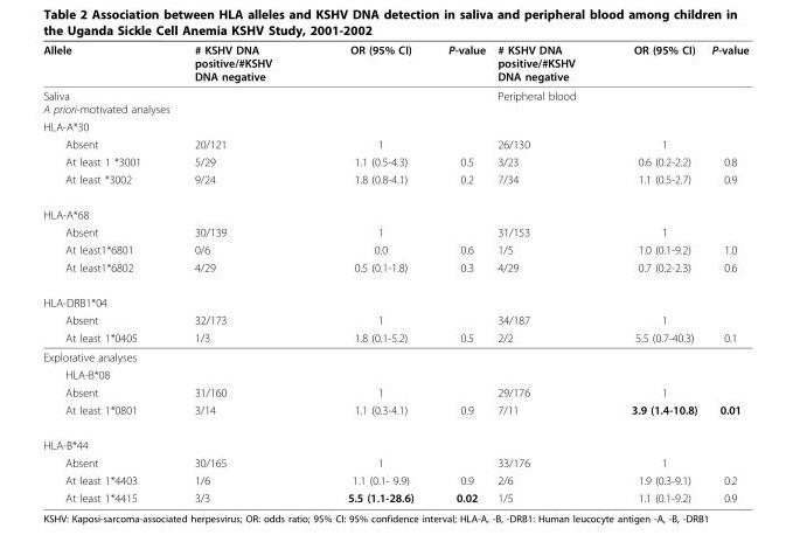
<table><thead><tr><td>Allele</td><td># KSHV DNA positive/#KSHV DNA negative</td><td>OR (95% CI)</td><td>P-value</td><td># KSHV DNA positive/#KSHV DNA negative</td><td>OR (95% CI)</td><td>P-value</td></tr></thead><tbody><tr><td colspan="2">Saliva A priori-motivated analyses</td><td></td><td></td><td>Peripheral blood</td><td></td><td></td></tr><tr><td colspan="7">HLA-A*30</td></tr><tr><td>Absent</td><td>20/121</td><td>1</td><td></td><td>26/130</td><td>1</td><td></td></tr><tr><td>At least 1 *3001</td><td>5/29</td><td>1.1 (0.5-4.3)</td><td>0.5</td><td>3/23</td><td>0.6 (0.2-2.2)</td><td>0.8</td></tr><tr><td>At least *3002</td><td>9/24</td><td>1.8 (0.8-4.1)</td><td>0.2</td><td>7/34</td><td>1.1 (0.5-2.7)</td><td>0.9</td></tr><tr><td colspan="7">HLA-A*68</td></tr><tr><td>Absent</td><td>30/139</td><td>1</td><td></td><td>31/153</td><td>1</td><td></td></tr><tr><td>At least1*6801</td><td>0/6</td><td>0.0</td><td>0.6</td><td>1/5</td><td>1.0 (0.1-9.2)</td><td>1.0</td></tr><tr><td>At least1*6802</td><td>4/29</td><td>0.5 (0.1-1.8)</td><td>0.3</td><td>4/29</td><td>0.7 (0.2-2.3)</td><td>0.6</td></tr><tr><td colspan="7">HLA-DRB1*04</td></tr><tr><td>Absent</td><td>32/173</td><td>1</td><td></td><td>34/187</td><td>1</td><td></td></tr><tr><td>At least 1*0405</td><td>1/3</td><td>1.8 (0.1-5.2)</td><td>0.5</td><td>2/2</td><td>5.5 (0.7-40.3)</td><td>0.1</td></tr><tr><td colspan="7">Explorative analyses</td></tr><tr><td colspan="7">HLA-B*08</td></tr><tr><td>Absent</td><td>31/160</td><td>1</td><td></td><td>29/176</td><td>1</td><td></td></tr><tr><td>At least 1*0801</td><td>3/14</td><td>1.1 (0.3-4.1)</td><td>0.9</td><td>7/11</td><td>3.9 (1.4-10.8)</td><td>0.01</td></tr><tr><td colspan="7">HLA-B*44</td></tr><tr><td>Absent</td><td>30/165</td><td>1</td><td></td><td>33/176</td><td>1</td><td></td></tr><tr><td>At least 1*4403</td><td>1/6</td><td>1.1 (0.1- 9.9)</td><td>0.9</td><td>2/6</td><td>1.9 (0.3-9.1)</td><td>0.2</td></tr><tr><td>At least 1*4415</td><td>3/3</td><td>5.5 (1.1-28.6)</td><td>0.02</td><td>1/5</td><td>1.1 (0.1-9.2)</td><td>0.9</td></tr></tbody></table>